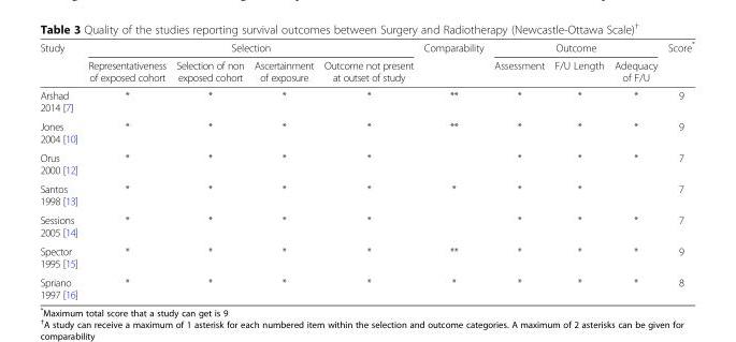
<table><thead><tr><td rowspan="2">Study</td><td colspan="4">Selection</td><td rowspan="2">Comparability</td><td colspan="3">Outcome</td><td rowspan="2">Score*</td></tr><tr><td>Representativeness of exposed cohort</td><td>Selection of non exposed cohort</td><td>Ascertainment of exposure</td><td>Outcome not present at outset of study</td><td>Assessment</td><td>F/U Length</td><td>Adequacy of F/U</td></tr></thead><tbody><tr><td>Arshad 2014 [7]</td><td>*</td><td>*</td><td>*</td><td>*</td><td>**</td><td>*</td><td>*</td><td>*</td><td>9</td></tr><tr><td>Jones 2004 [10]</td><td>*</td><td>*</td><td>*</td><td>*</td><td>**</td><td>*</td><td>*</td><td>*</td><td>9</td></tr><tr><td>Orus 2000 [12]</td><td>*</td><td>*</td><td>*</td><td>*</td><td></td><td>*</td><td>*</td><td>*</td><td>7</td></tr><tr><td>Santos 1998 [13]</td><td>*</td><td>*</td><td>*</td><td>*</td><td>*</td><td>*</td><td>*</td><td></td><td>7</td></tr><tr><td>Sessions 2005 [14]</td><td>*</td><td>*</td><td>*</td><td>*</td><td></td><td>*</td><td>*</td><td>*</td><td>7</td></tr><tr><td>Spector 1995 [15]</td><td>*</td><td>*</td><td>*</td><td>*</td><td>**</td><td>*</td><td>*</td><td>*</td><td>9</td></tr><tr><td>Spriano 1997 [16]</td><td>*</td><td>*</td><td>*</td><td>*</td><td>*</td><td>*</td><td>*</td><td>*</td><td>8</td></tr></tbody></table>